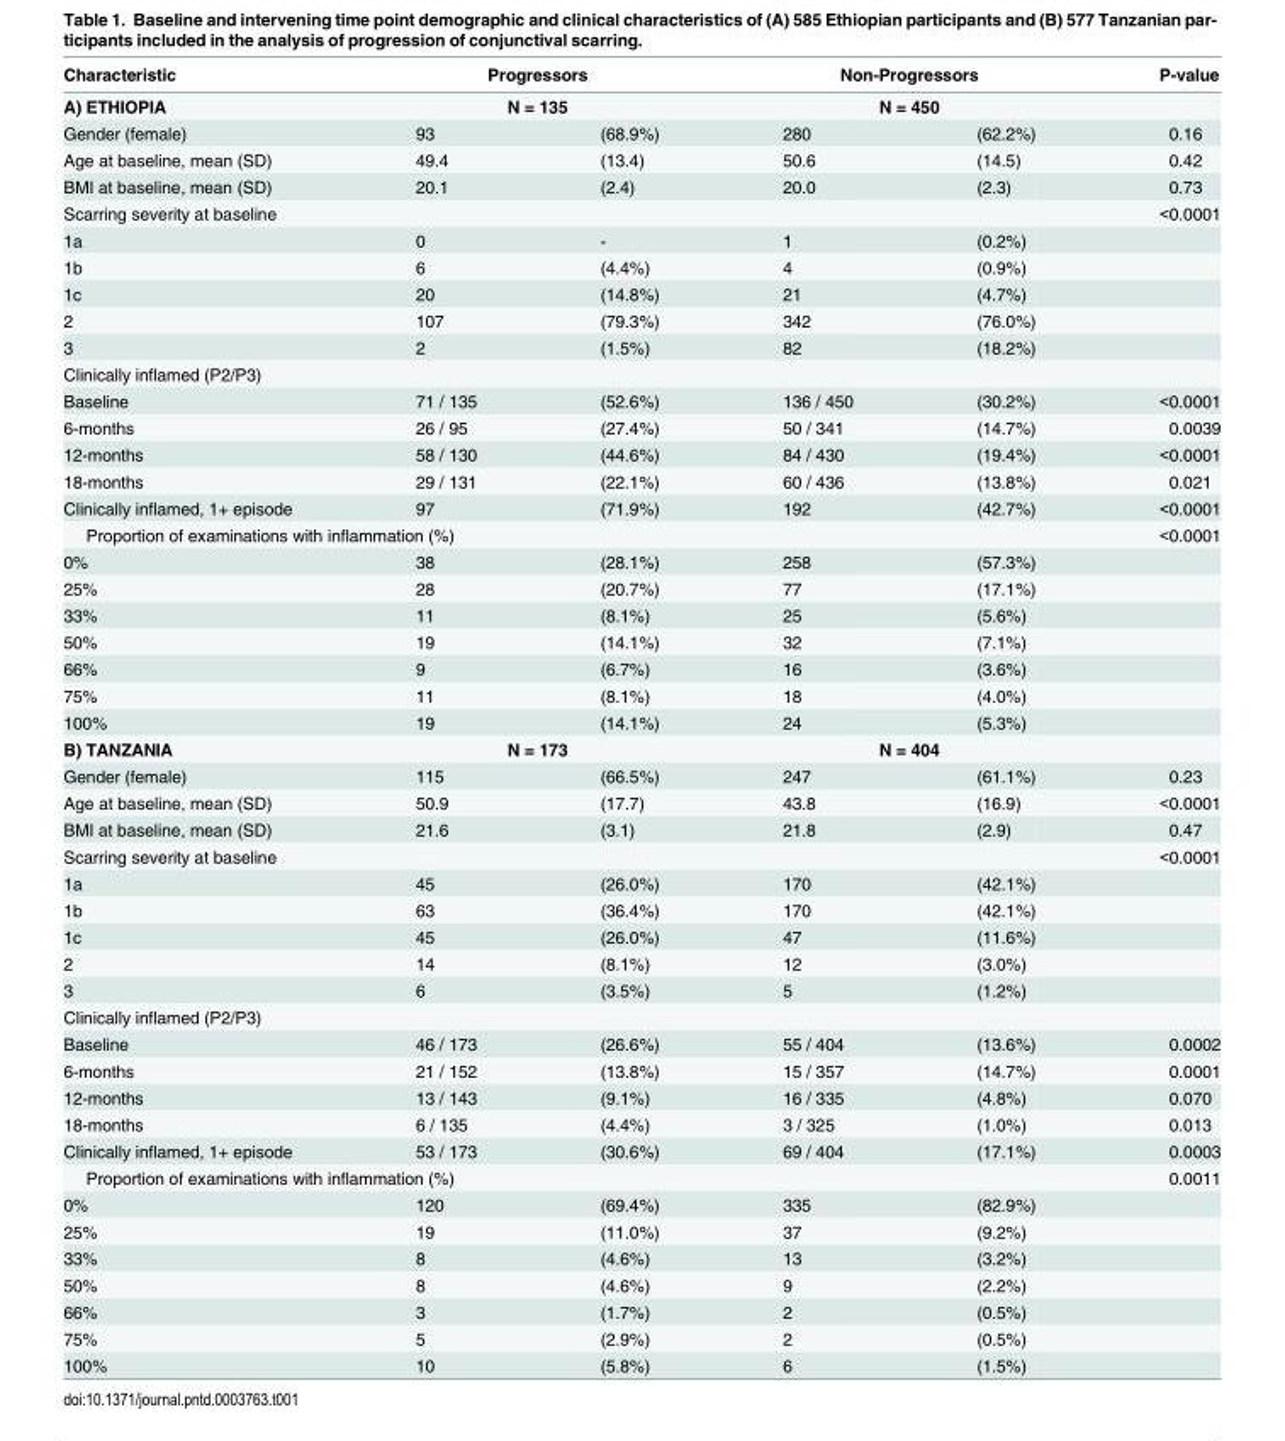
<table><thead><tr><td rowspan="3">Characteristic A) ETHIOPIA Gender (female)</td><td rowspan="2" colspan="2">Progressors N = 135</td><td rowspan="2" colspan="2">Non-Progressors N = 450</td><td rowspan="3">P-value 0.16</td></tr><tr></tr><tr><td>93</td><td>(68.9%)</td><td>280</td><td>(62.2%)</td></tr></thead><tbody><tr><td>Age at baseline, mean (SD)</td><td>49.4</td><td>(13.4)</td><td>50.6</td><td>(14.5)</td><td>0.42</td></tr><tr><td>BMI at baseline, mean (SD)</td><td>20.1</td><td>(2.4)</td><td>20.0</td><td>(2.3)</td><td>0.73</td></tr><tr><td>Scarring severity at baseline</td><td></td><td></td><td></td><td></td><td>&lt;0.0001</td></tr><tr><td>1a</td><td>0</td><td>-</td><td>1</td><td>(0.2%)</td><td></td></tr><tr><td>1b</td><td>6</td><td>(4.4%)</td><td>4</td><td>(0.9%)</td><td></td></tr><tr><td>1c</td><td>20</td><td>(14.8%)</td><td>21</td><td>(4.7%)</td><td></td></tr><tr><td>2</td><td>107</td><td>(79.3%)</td><td>342</td><td>(76.0%)</td><td></td></tr><tr><td>3</td><td>2</td><td>(1.5%)</td><td>82</td><td>(18.2%)</td><td></td></tr><tr><td colspan="6">Clinically inflamed (P2/P3)</td></tr><tr><td>Baseline</td><td>71 / 135</td><td>(52.6%)</td><td>136 / 450</td><td>(30.2%)</td><td>&lt;0.0001</td></tr><tr><td>6-months</td><td>26 / 95</td><td>(27.4%)</td><td>50 / 341</td><td>(14.7%)</td><td>0.0039</td></tr><tr><td>12-months</td><td>58 / 130</td><td>(44.6%)</td><td>84 / 430</td><td>(19.4%)</td><td>&lt;0.0001</td></tr><tr><td>18-months</td><td>29 / 131</td><td>(22.1%)</td><td>60 / 436</td><td>(13.8%)</td><td>0.021</td></tr><tr><td>Clinically inflamed, 1+ episode</td><td>97</td><td>(71.9%)</td><td>192</td><td>(42.7%)</td><td>&lt;0.0001</td></tr><tr><td colspan="2">Proportion of examinations with inflammation (%)</td><td></td><td></td><td></td><td>&lt;0.0001</td></tr><tr><td>0%</td><td>38</td><td>(28.1%)</td><td>258</td><td>(57.3%)</td><td></td></tr><tr><td>25%</td><td>28</td><td>(20.7%)</td><td>77</td><td>(17.1%)</td><td></td></tr><tr><td>33%</td><td>11</td><td>(8.1%)</td><td>25</td><td>(5.6%)</td><td></td></tr><tr><td>50%</td><td>19</td><td>(14.1%)</td><td>32</td><td>(7.1%)</td><td></td></tr><tr><td>66%</td><td>9</td><td>(6.7%)</td><td>16</td><td>(3.6%)</td><td></td></tr><tr><td>75%</td><td>11</td><td>(8.1%)</td><td>18</td><td>(4.0%)</td><td></td></tr><tr><td>100%</td><td>19</td><td>(14.1%)</td><td>24</td><td>(5.3%)</td><td></td></tr><tr><td>B) TANZANIA</td><td colspan="2">N = 173</td><td colspan="2">N = 404</td><td></td></tr><tr><td>Gender (female)</td><td>115</td><td>(66.5%)</td><td>247</td><td>(61.1%)</td><td>0.23</td></tr><tr><td>Age at baseline, mean (SD)</td><td>50.9</td><td>(17.7)</td><td>43.8</td><td>(16.9)</td><td>&lt;0.0001</td></tr><tr><td>BMI at baseline, mean (SD)</td><td>21.6</td><td>(3.1)</td><td>21.8</td><td>(2.9)</td><td>0.47</td></tr><tr><td>Scarring severity at baseline</td><td></td><td></td><td></td><td></td><td>&lt;0.0001</td></tr><tr><td>1a</td><td>45</td><td>(26.0%)</td><td>170</td><td>(42.1%)</td><td></td></tr><tr><td>1b</td><td>63</td><td>(36.4%)</td><td>170</td><td>(42.1%)</td><td></td></tr><tr><td>1c</td><td>45</td><td>(26.0%)</td><td>47</td><td>(11.6%)</td><td></td></tr><tr><td>2</td><td>14</td><td>(8.1%)</td><td>12</td><td>(3.0%)</td><td></td></tr><tr><td>3</td><td>6</td><td>(3.5%)</td><td>5</td><td>(1.2%)</td><td></td></tr><tr><td colspan="6">Clinically inflamed (P2/P3)</td></tr><tr><td>Baseline</td><td>46 / 173</td><td>(26.6%)</td><td>55 / 404</td><td>(13.6%)</td><td>0.0002</td></tr><tr><td>6-months</td><td>21 / 152</td><td>(13.8%)</td><td>15 / 357</td><td>(14.7%)</td><td>0.0001</td></tr><tr><td>12-months</td><td>13 / 143</td><td>(9.1%)</td><td>16 / 335</td><td>(4.8%)</td><td>0.070</td></tr><tr><td>18-months</td><td>6 / 135</td><td>(4.4%)</td><td>3 / 325</td><td>(1.0%)</td><td>0.013</td></tr><tr><td>Clinically inflamed, 1+ episode</td><td>53 / 173</td><td>(30.6%)</td><td>69 / 404</td><td>(17.1%)</td><td>0.0003</td></tr><tr><td colspan="2">Proportion of examinations with inflammation (%)</td><td></td><td></td><td></td><td>0.0011</td></tr><tr><td>0%</td><td>120</td><td>(69.4%)</td><td>335</td><td>(82.9%)</td><td></td></tr><tr><td>25%</td><td>19</td><td>(11.0%)</td><td>37</td><td>(9.2%)</td><td></td></tr><tr><td>33%</td><td>8</td><td>(4.6%)</td><td>13</td><td>(3.2%)</td><td></td></tr><tr><td>50%</td><td>8</td><td>(4.6%)</td><td>9</td><td>(2.2%)</td><td></td></tr><tr><td>66%</td><td>3</td><td>(1.7%)</td><td>2</td><td>(0.5%)</td><td></td></tr><tr><td>75%</td><td>5</td><td>(2.9%)</td><td>2</td><td>(0.5%)</td><td></td></tr><tr><td>100%</td><td>10</td><td>(5.8%)</td><td>6</td><td>(1.5%)</td><td></td></tr></tbody></table>